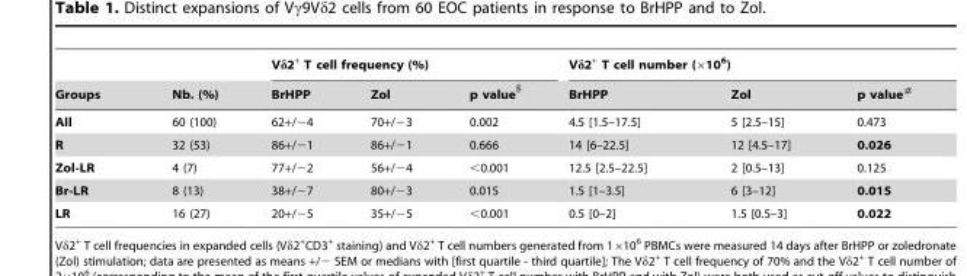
<table><thead><tr><td rowspan="2">Groups</td><td rowspan="2">Nb. (%)</td><td colspan="3">Vδ2<sup>+</sup> T cell frequency (%)</td><td colspan="3">Vδ2<sup>+</sup> T cell number (×10<sup>6</sup>)</td></tr><tr><td>BrHPP</td><td>Zol</td><td>p value<sup>$</sup></td><td>BrHPP</td><td>Zol</td><td>p value<sup>#</sup></td></tr></thead><tbody><tr><td>All</td><td>60 (100)</td><td>62+/−4</td><td>70+/−3</td><td>0.002</td><td>4.5 [1.5–17.5]</td><td>5 [2.5–15]</td><td>0.473</td></tr><tr><td>R</td><td>32 (53)</td><td>86+/−1</td><td>86+/−1</td><td>0.666</td><td>14 [6–22.5]</td><td>12 [4.5–17]</td><td>0.026</td></tr><tr><td>Zol-LR</td><td>4 (7)</td><td>77+/−2</td><td>56+/−4</td><td>&lt;0.001</td><td>12.5 [2.5–22.5]</td><td>2 [0.5–13]</td><td>0.125</td></tr><tr><td>Br-LR</td><td>8 (13)</td><td>38+/−7</td><td>80+/−3</td><td>0.015</td><td>1.5 [1–3.5]</td><td>6 [3–12]</td><td>0.015</td></tr><tr><td>LR</td><td>16 (27)</td><td>20+/−5</td><td>35+/−5</td><td>&lt;0.001</td><td>0.5 [0–2]</td><td>1.5 [0.5–3]</td><td>0.022</td></tr></tbody></table>